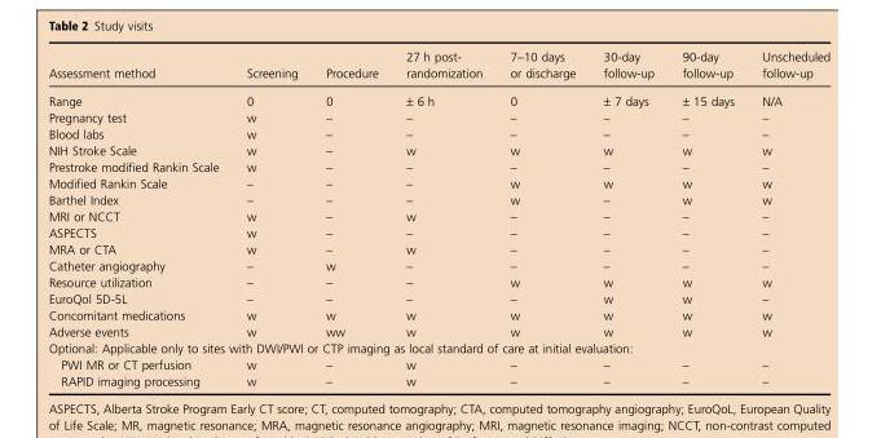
<table><thead><tr><td>Assessment method</td><td>Screening</td><td>Procedure</td><td>27 h post- randomization</td><td>7–10 days or discharge</td><td>30-day follow-up</td><td>90-day follow-up</td><td>Unscheduled follow-up</td></tr></thead><tbody><tr><td>Range</td><td>0</td><td>0</td><td>± 6 h</td><td>0</td><td>± 7 days</td><td>± 15 days</td><td>N/A</td></tr><tr><td>Pregnancy test</td><td>w</td><td>–</td><td>–</td><td>–</td><td>–</td><td>–</td><td>–</td></tr><tr><td>Blood labs</td><td>w</td><td>–</td><td>–</td><td>–</td><td>–</td><td>–</td><td>–</td></tr><tr><td>NIH Stroke Scale</td><td>w</td><td>–</td><td>w</td><td>w</td><td>w</td><td>w</td><td>w</td></tr><tr><td>Prestroke modified Rankin Scale</td><td>w</td><td>–</td><td>–</td><td>–</td><td>–</td><td>–</td><td>–</td></tr><tr><td>Modified Rankin Scale</td><td>–</td><td>–</td><td>–</td><td>w</td><td>w</td><td>w</td><td>w</td></tr><tr><td>Barthel Index</td><td>–</td><td>–</td><td>–</td><td>w</td><td>–</td><td>w</td><td>w</td></tr><tr><td>MRI or NCCT</td><td>w</td><td>–</td><td>w</td><td>–</td><td>–</td><td>–</td><td>–</td></tr><tr><td>ASPECTS</td><td>w</td><td>–</td><td>–</td><td>–</td><td>–</td><td>–</td><td>–</td></tr><tr><td>MRA or CTA</td><td>w</td><td>–</td><td>w</td><td>–</td><td>–</td><td>–</td><td>–</td></tr><tr><td>Catheter angiography</td><td>–</td><td>w</td><td>–</td><td>–</td><td>–</td><td>–</td><td>–</td></tr><tr><td>Resource utilization</td><td>–</td><td>–</td><td>–</td><td>w</td><td>w</td><td>w</td><td>w</td></tr><tr><td>EuroQol 5D-5L</td><td>–</td><td>–</td><td>–</td><td>–</td><td>w</td><td>w</td><td>–</td></tr><tr><td>Concomitant medications</td><td>w</td><td>w</td><td>w</td><td>w</td><td>w</td><td>w</td><td>w</td></tr><tr><td>Adverse events</td><td>w</td><td>ww</td><td>w</td><td>w</td><td>w</td><td>w</td><td>w</td></tr><tr><td colspan="8">Optional: Applicable only to sites with DWI/PWI or CTP imaging as local standard of care at initial evaluation:</td></tr><tr><td>PWI MR or CT perfusion</td><td>w</td><td>–</td><td>w</td><td>–</td><td>–</td><td>–</td><td>–</td></tr><tr><td>RAPID imaging processing</td><td>w</td><td>–</td><td>w</td><td>–</td><td>–</td><td>–</td><td>–</td></tr></tbody></table>